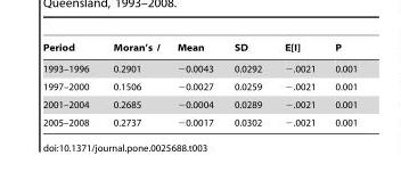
<table><thead><tr><td>Period</td><td>Moran’s I</td><td>Mean</td><td>SD</td><td>E[I]</td><td>P</td></tr></thead><tbody><tr><td>1993–1996</td><td>0.2901</td><td>−0.0043</td><td>0.0292</td><td>−.0021</td><td>0.001</td></tr><tr><td>1997–2000</td><td>0.1506</td><td>−0.0027</td><td>0.0259</td><td>−.0021</td><td>0.001</td></tr><tr><td>2001–2004</td><td>0.2685</td><td>−0.0004</td><td>0.0289</td><td>−.0021</td><td>0.001</td></tr><tr><td>2005–2008</td><td>0.2737</td><td>−0.0017</td><td>0.0302</td><td>−.0021</td><td>0.001</td></tr></tbody></table>